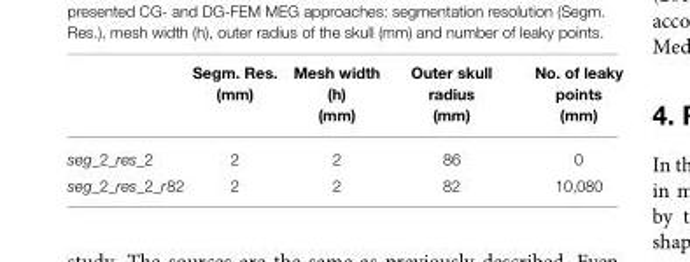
<table><thead><tr><td></td><td>Segm. Res. (mm)</td><td>Mesh width (h) (mm)</td><td>Outer skull radius (mm)</td><td>No. of leaky points (mm)</td></tr></thead><tbody><tr><td>seg_2_res_2</td><td>2</td><td>2</td><td>86</td><td>0</td></tr><tr><td>seg_2_res_2_r82</td><td>2</td><td>2</td><td>82</td><td>10,080</td></tr></tbody></table>